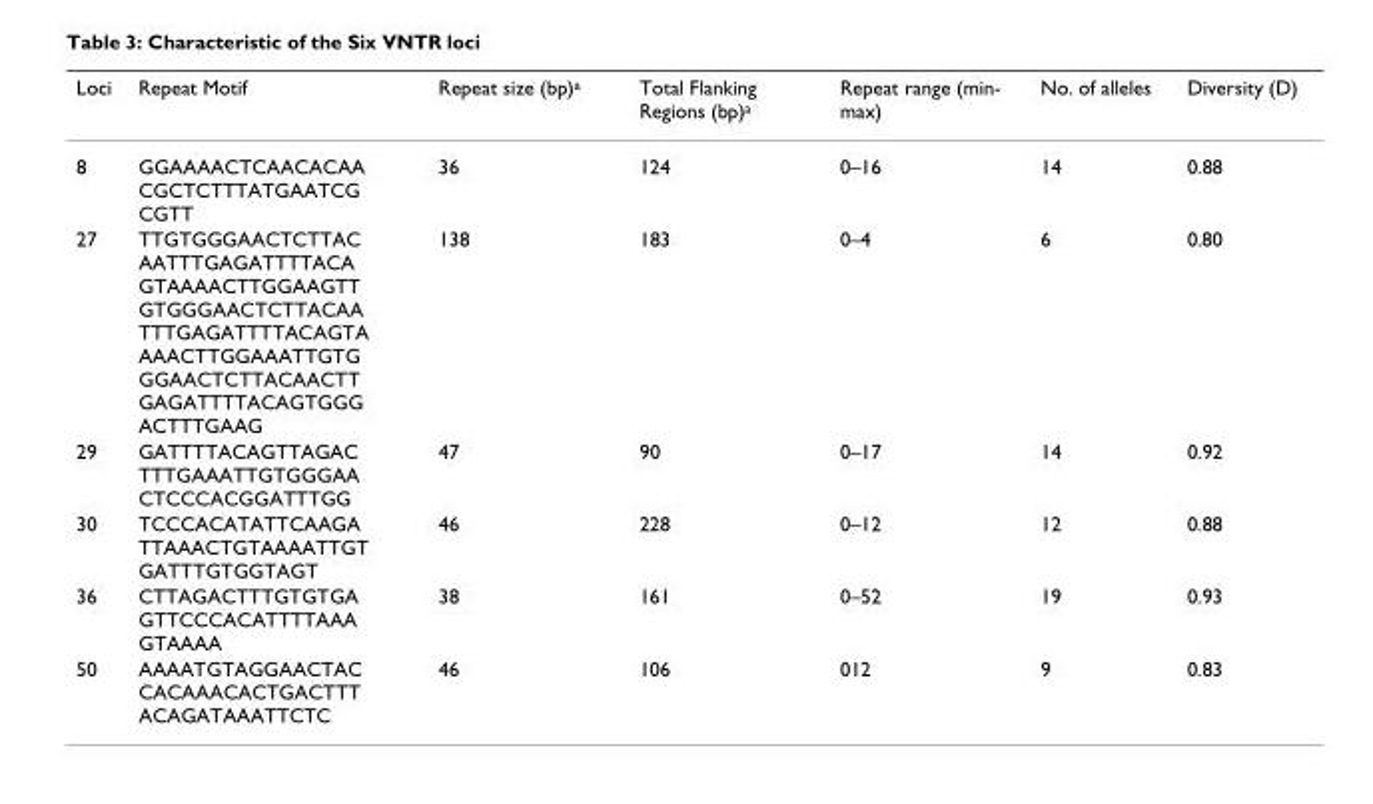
<table><thead><tr><td>Loci</td><td>Repeat Motif</td><td>Repeat size (bp)<sup>a</sup></td><td>Total Flanking Regions (bp)<sup>a</sup></td><td>Repeat range (min- max)</td><td>No. of alleles</td><td>Diversity (D)</td></tr></thead><tbody><tr><td>8</td><td>GGAAAACTCAACACAA CGCTCTTTATGAATCG CGTT</td><td>36</td><td>124</td><td>0–16</td><td>14</td><td>0.88</td></tr><tr><td>27</td><td>TTGTGGGAACTCTTAC AATTTGAGATTTTACA GTAAAACTTGGAAGTT GTGGGAACTCTTACAA TTTGAGATTTTACAGTA AAACTTGGAAATTGTG GGAACTCTTACAACTT GAGATTTTACAGTGGG ACTTTGAAG</td><td>138</td><td>183</td><td>0–4</td><td>6</td><td>0.80</td></tr><tr><td>29</td><td>GATTTTACAGTTAGAC TTTGAAATTGTGGGAA CTCCCACGGATTTGG</td><td>47</td><td>90</td><td>0–17</td><td>14</td><td>0.92</td></tr><tr><td>30</td><td>TCCCACATATTCAAGA TTAAACTGTAAAATTGT GATTTGTGGTAGT</td><td>46</td><td>228</td><td>0–12</td><td>12</td><td>0.88</td></tr><tr><td>36</td><td>CTTAGACTTTGTGTGA GTTCCCACATTTTAAA GTAAAA</td><td>38</td><td>161</td><td>0–52</td><td>19</td><td>0.93</td></tr><tr><td>50</td><td>AAAATGTAGGAACTAC CACAAACACTGACTTT ACAGATAAATTCTC</td><td>46</td><td>106</td><td>012</td><td>9</td><td>0.83</td></tr></tbody></table>